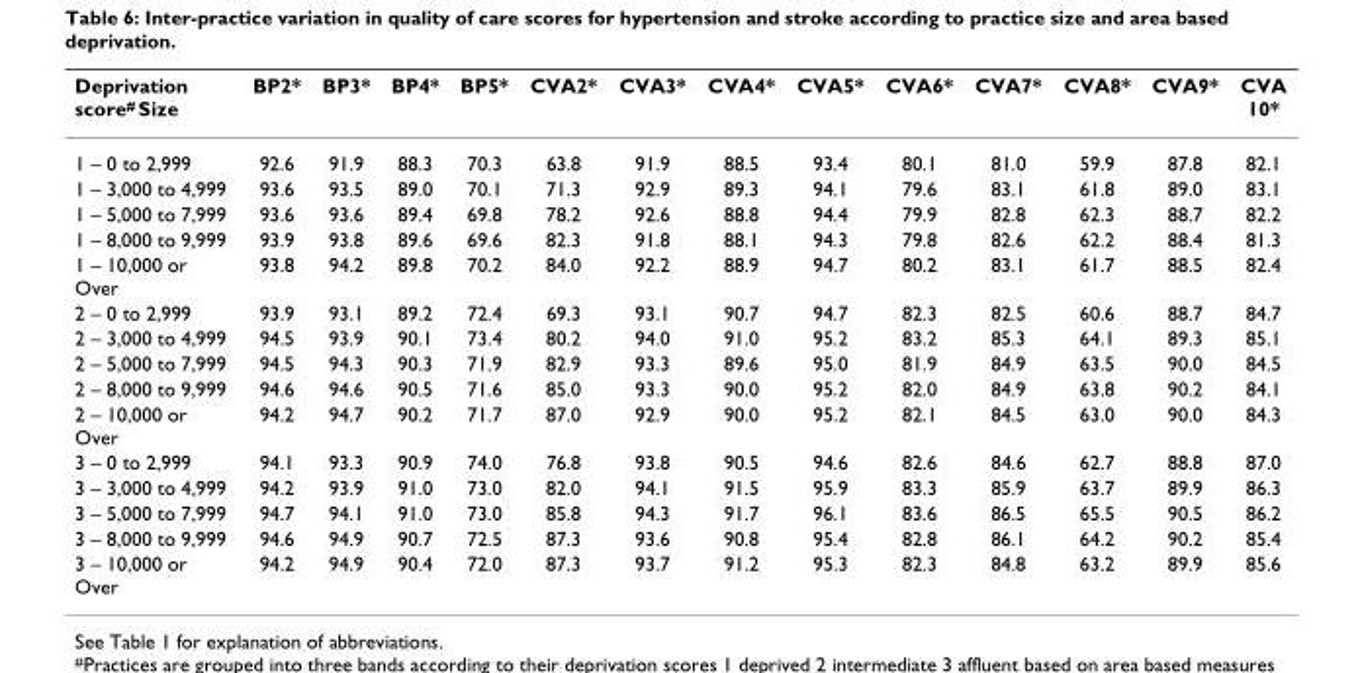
<table><thead><tr><td>Deprivation score<sup>#</sup> Size</td><td>BP2*</td><td>BP3*</td><td>BP4*</td><td>BP5*</td><td>CVA2*</td><td>CVA3*</td><td>CVA4*</td><td>CVA5*</td><td>CVA6*</td><td>CVA7*</td><td>CVA8*</td><td>CVA9*</td><td>CVA 10*</td></tr></thead><tbody><tr><td>1 – 0 to 2,999</td><td>92.6</td><td>91.9</td><td>88.3</td><td>70.3</td><td>63.8</td><td>91.9</td><td>88.5</td><td>93.4</td><td>80.1</td><td>81.0</td><td>59.9</td><td>87.8</td><td>82.1</td></tr><tr><td>1 – 3,000 to 4,999</td><td>93.6</td><td>93.5</td><td>89.0</td><td>70.1</td><td>71.3</td><td>92.9</td><td>89.3</td><td>94.1</td><td>79.6</td><td>83.1</td><td>61.8</td><td>89.0</td><td>83.1</td></tr><tr><td>1 – 5,000 to 7,999</td><td>93.6</td><td>93.6</td><td>89.4</td><td>69.8</td><td>78.2</td><td>92.6</td><td>88.8</td><td>94.4</td><td>79.9</td><td>82.8</td><td>62.3</td><td>88.7</td><td>82.2</td></tr><tr><td>1 – 8,000 to 9,999</td><td>93.9</td><td>93.8</td><td>89.6</td><td>69.6</td><td>82.3</td><td>91.8</td><td>88.1</td><td>94.3</td><td>79.8</td><td>82.6</td><td>62.2</td><td>88.4</td><td>81.3</td></tr><tr><td>1 – 10,000 or Over</td><td>93.8</td><td>94.2</td><td>89.8</td><td>70.2</td><td>84.0</td><td>92.2</td><td>88.9</td><td>94.7</td><td>80.2</td><td>83.1</td><td>61.7</td><td>88.5</td><td>82.4</td></tr><tr><td>2 – 0 to 2,999</td><td>93.9</td><td>93.1</td><td>89.2</td><td>72.4</td><td>69.3</td><td>93.1</td><td>90.7</td><td>94.7</td><td>82.3</td><td>82.5</td><td>60.6</td><td>88.7</td><td>84.7</td></tr><tr><td>2 – 3,000 to 4,999</td><td>94.5</td><td>93.9</td><td>90.1</td><td>73.4</td><td>80.2</td><td>94.0</td><td>91.0</td><td>95.2</td><td>83.2</td><td>85.3</td><td>64.1</td><td>89.3</td><td>85.1</td></tr><tr><td>2 – 5,000 to 7,999</td><td>94.5</td><td>94.3</td><td>90.3</td><td>71.9</td><td>82.9</td><td>93.3</td><td>89.6</td><td>95.0</td><td>81.9</td><td>84.9</td><td>63.5</td><td>90.0</td><td>84.5</td></tr><tr><td>2 – 8,000 to 9,999</td><td>94.6</td><td>94.6</td><td>90.5</td><td>71.6</td><td>85.0</td><td>93.3</td><td>90.0</td><td>95.2</td><td>82.0</td><td>84.9</td><td>63.8</td><td>90.2</td><td>84.1</td></tr><tr><td>2 – 10,000 or Over</td><td>94.2</td><td>94.7</td><td>90.2</td><td>71.7</td><td>87.0</td><td>92.9</td><td>90.0</td><td>95.2</td><td>82.1</td><td>84.5</td><td>63.0</td><td>90.0</td><td>84.3</td></tr><tr><td>3 – 0 to 2,999</td><td>94.1</td><td>93.3</td><td>90.9</td><td>74.0</td><td>76.8</td><td>93.8</td><td>90.5</td><td>94.6</td><td>82.6</td><td>84.6</td><td>62.7</td><td>88.8</td><td>87.0</td></tr><tr><td>3 – 3,000 to 4,999</td><td>94.2</td><td>93.9</td><td>91.0</td><td>73.0</td><td>82.0</td><td>94.1</td><td>91.5</td><td>95.9</td><td>83.3</td><td>85.9</td><td>63.7</td><td>89.9</td><td>86.3</td></tr><tr><td>3 – 5,000 to 7,999</td><td>94.7</td><td>94.1</td><td>91.0</td><td>73.0</td><td>85.8</td><td>94.3</td><td>91.7</td><td>96.1</td><td>83.6</td><td>86.5</td><td>65.5</td><td>90.5</td><td>86.2</td></tr><tr><td>3 – 8,000 to 9,999</td><td>94.6</td><td>94.9</td><td>90.7</td><td>72.5</td><td>87.3</td><td>93.6</td><td>90.8</td><td>95.4</td><td>82.8</td><td>86.1</td><td>64.2</td><td>90.2</td><td>85.4</td></tr><tr><td>3 – 10,000 or Over</td><td>94.2</td><td>94.9</td><td>90.4</td><td>72.0</td><td>87.3</td><td>93.7</td><td>91.2</td><td>95.3</td><td>82.3</td><td>84.8</td><td>63.2</td><td>89.9</td><td>85.6</td></tr></tbody></table>